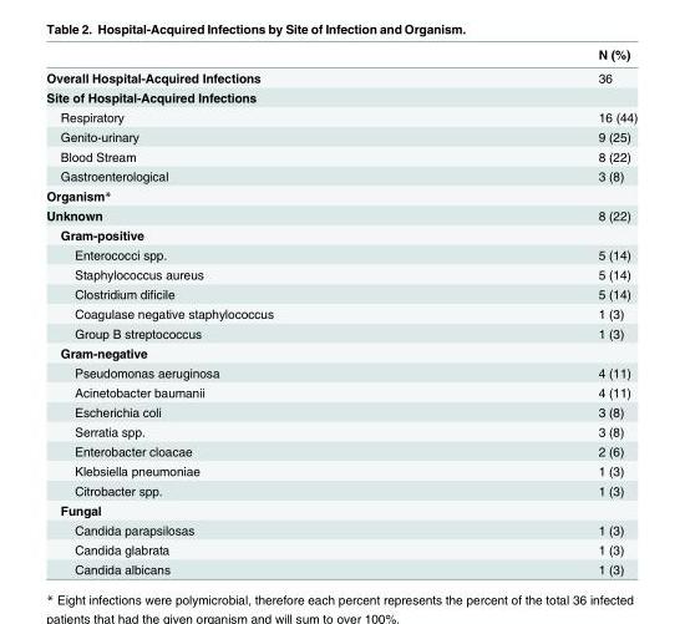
<table><thead><tr><td></td><td>N (%)</td></tr></thead><tbody><tr><td>Overall Hospital-Acquired Infections</td><td>36</td></tr><tr><td colspan="2">Site of Hospital-Acquired Infections</td></tr><tr><td>Respiratory</td><td>16 (44)</td></tr><tr><td>Genito-urinary</td><td>9 (25)</td></tr><tr><td>Blood Stream</td><td>8 (22)</td></tr><tr><td>Gastroenterological</td><td>3 (8)</td></tr><tr><td colspan="2">Organism*</td></tr><tr><td>Unknown</td><td>8 (22)</td></tr><tr><td colspan="2">Gram-positive</td></tr><tr><td>Enterococci spp.</td><td>5 (14)</td></tr><tr><td>Staphylococcus aureus</td><td>5 (14)</td></tr><tr><td>Clostridium dificile</td><td>5 (14)</td></tr><tr><td>Coagulase negative staphylococcus</td><td>1 (3)</td></tr><tr><td>Group B streptococcus</td><td>1 (3)</td></tr><tr><td colspan="2">Gram-negative</td></tr><tr><td>Pseudomonas aeruginosa</td><td>4 (11)</td></tr><tr><td>Acinetobacter baumanii</td><td>4 (11)</td></tr><tr><td>Escherichia coli</td><td>3 (8)</td></tr><tr><td>Serratia spp.</td><td>3 (8)</td></tr><tr><td>Enterobacter cloacae</td><td>2 (6)</td></tr><tr><td>Klebsiella pneumoniae</td><td>1 (3)</td></tr><tr><td>Citrobacter spp.</td><td>1 (3)</td></tr><tr><td colspan="2">Fungal</td></tr><tr><td>Candida parapsilosas</td><td>1 (3)</td></tr><tr><td>Candida glabrata</td><td>1 (3)</td></tr><tr><td>Candida albicans</td><td>1 (3)</td></tr></tbody></table>